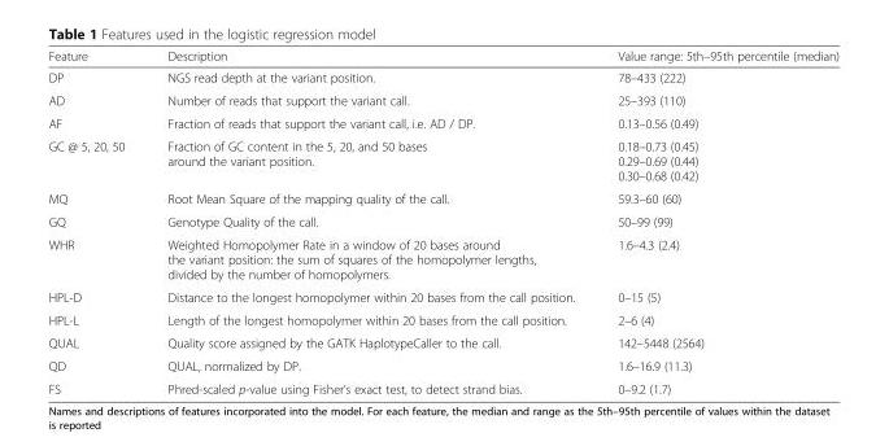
<table><thead><tr><td>Feature</td><td>Description</td><td>Value range: 5th–95th percentile (median)</td></tr></thead><tbody><tr><td>DP</td><td>NGS read depth at the variant position.</td><td>78–433 (222)</td></tr><tr><td>AD</td><td>Number of reads that support the variant call.</td><td>25–393 (110)</td></tr><tr><td>AF</td><td>Fraction of reads that support the variant call, i.e. AD / DP.</td><td>0.13–0.56 (0.49)</td></tr><tr><td>GC @ 5, 20, 50</td><td>Fraction of GC content in the 5, 20, and 50 bases around the variant position.</td><td>0.18–0.73 (0.45) 0.29–0.69 (0.44) 0.30–0.68 (0.42)</td></tr><tr><td>MQ</td><td>Root Mean Square of the mapping quality of the call.</td><td>59.3–60 (60)</td></tr><tr><td>GQ</td><td>Genotype Quality of the call.</td><td>50–99 (99)</td></tr><tr><td>WHR</td><td>Weighted Homopolymer Rate in a window of 20 bases around the variant position: the sum of squares of the homopolymer lengths, divided by the number of homopolymers.</td><td>1.6–4.3 (2.4)</td></tr><tr><td>HPL-D</td><td>Distance to the longest homopolymer within 20 bases from the call position.</td><td>0–15 (5)</td></tr><tr><td>HPL-L</td><td>Length of the longest homopolymer within 20 bases from the call position.</td><td>2–6 (4)</td></tr><tr><td>QUAL</td><td>Quality score assigned by the GATK HaplotypeCaller to the call.</td><td>142–5448 (2564)</td></tr><tr><td>QD</td><td>QUAL, normalized by DP.</td><td>1.6–16.9 (11.3)</td></tr><tr><td>FS</td><td>Phred-scaled p-value using Fisher’s exact test, to detect strand bias.</td><td>0–9.2 (1.7)</td></tr></tbody></table>